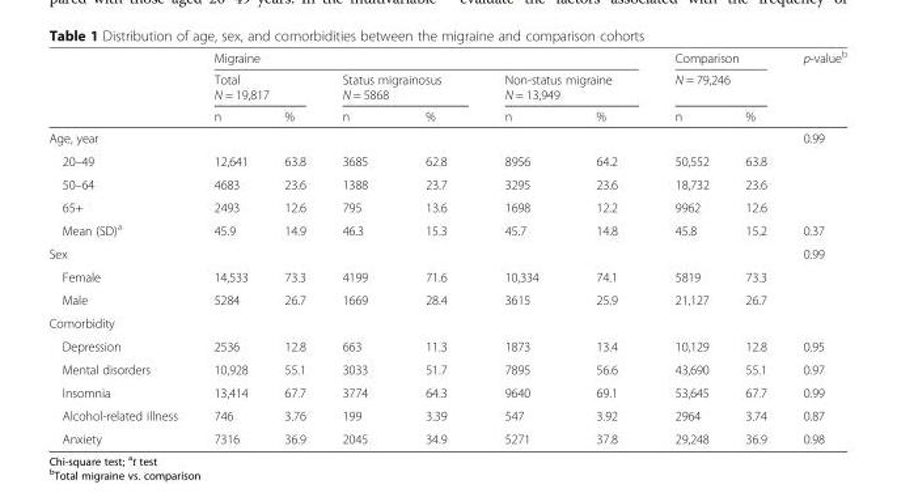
<table><thead><tr><td rowspan="3"></td><td colspan="6">Migraine</td><td rowspan="2" colspan="2">Comparison N = 79,246</td><td rowspan="3">p-value<sup>b</sup></td></tr><tr><td colspan="2">Total N = 19,817</td><td colspan="2">Status migrainosus N = 5868</td><td colspan="2">Non-status migraine N = 13,949</td></tr><tr><td>n</td><td>%</td><td>n</td><td>%</td><td>n</td><td>%</td><td>n</td><td>%</td></tr></thead><tbody><tr><td colspan="9">Age, year</td><td>0.99</td></tr><tr><td>20–49</td><td>12,641</td><td>63.8</td><td>3685</td><td>62.8</td><td>8956</td><td>64.2</td><td>50,552</td><td>63.8</td><td></td></tr><tr><td>50–64</td><td>4683</td><td>23.6</td><td>1388</td><td>23.7</td><td>3295</td><td>23.6</td><td>18,732</td><td>23.6</td><td></td></tr><tr><td>65+</td><td>2493</td><td>12.6</td><td>795</td><td>13.6</td><td>1698</td><td>12.2</td><td>9962</td><td>12.6</td><td></td></tr><tr><td>Mean (SD)<sup>a</sup></td><td>45.9</td><td>14.9</td><td>46.3</td><td>15.3</td><td>45.7</td><td>14.8</td><td>45.8</td><td>15.2</td><td>0.37</td></tr><tr><td colspan="9">Sex</td><td>0.99</td></tr><tr><td>Female</td><td>14,533</td><td>73.3</td><td>4199</td><td>71.6</td><td>10,334</td><td>74.1</td><td>5819</td><td>73.3</td><td></td></tr><tr><td>Male</td><td>5284</td><td>26.7</td><td>1669</td><td>28.4</td><td>3615</td><td>25.9</td><td>21,127</td><td>26.7</td><td></td></tr><tr><td colspan="10">Comorbidity</td></tr><tr><td>Depression</td><td>2536</td><td>12.8</td><td>663</td><td>11.3</td><td>1873</td><td>13.4</td><td>10,129</td><td>12.8</td><td>0.95</td></tr><tr><td>Mental disorders</td><td>10,928</td><td>55.1</td><td>3033</td><td>51.7</td><td>7895</td><td>56.6</td><td>43,690</td><td>55.1</td><td>0.97</td></tr><tr><td>Insomnia</td><td>13,414</td><td>67.7</td><td>3774</td><td>64.3</td><td>9640</td><td>69.1</td><td>53,645</td><td>67.7</td><td>0.99</td></tr><tr><td>Alcohol-related illness</td><td>746</td><td>3.76</td><td>199</td><td>3.39</td><td>547</td><td>3.92</td><td>2964</td><td>3.74</td><td>0.87</td></tr><tr><td>Anxiety</td><td>7316</td><td>36.9</td><td>2045</td><td>34.9</td><td>5271</td><td>37.8</td><td>29,248</td><td>36.9</td><td>0.98</td></tr></tbody></table>